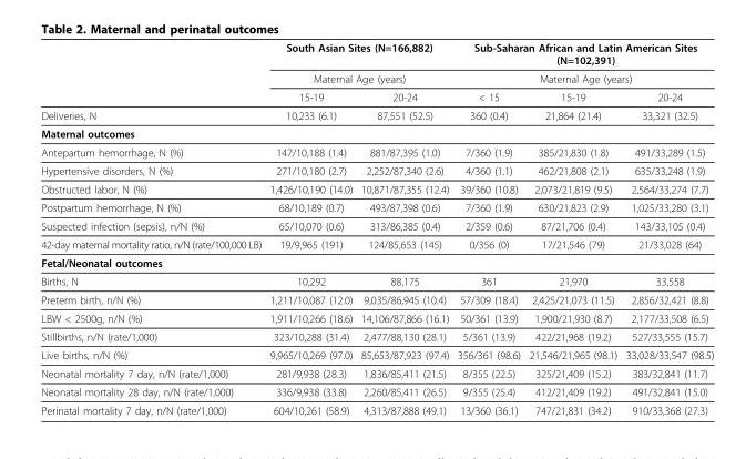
<table><thead><tr><td rowspan="3"></td><td rowspan="2" colspan="2">South Asian Sites (N=166,882) Maternal Age (years)</td><td rowspan="2" colspan="3">Sub-Saharan African and Latin American Sites (N=102,391) Maternal Age (years)</td></tr><tr></tr><tr><td>15-19</td><td>20-24</td><td>&lt; 15</td><td>15-19</td><td>20-24</td></tr></thead><tbody><tr><td>Deliveries, N</td><td>10,233 (6.1)</td><td>87,551 (52.5)</td><td>360 (0.4)</td><td>21,864 (21.4)</td><td>33,321 (32.5)</td></tr><tr><td colspan="6">Maternal outcomes</td></tr><tr><td>Antepartum hemorrhage, N (%)</td><td>147/10,188 (1.4)</td><td>881/87,395 (1.0)</td><td>7/360 (1.9)</td><td>385/21,830 (1.8)</td><td>491/33,289 (1.5)</td></tr><tr><td>Hypertensive disorders, N (%)</td><td>271/10,180 (2.7)</td><td>2,252/87,340 (2.6)</td><td>4/360 (1.1)</td><td>462/21,808 (2.1)</td><td>635/33,248 (1.9)</td></tr><tr><td>Obstructed labor, N (%)</td><td>1,426/10,190 (14.0)</td><td>10,871/87,355 (12.4)</td><td>39/360 (10.8)</td><td>2,073/21,819 (9.5)</td><td>2,564/33,274 (7.7)</td></tr><tr><td>Postpartum hemorrhage, N (%)</td><td>68/10,189 (0.7)</td><td>493/87,398 (0.6)</td><td>7/360 (1.9)</td><td>630/21,823 (2.9)</td><td>1,025/33,280 (3.1)</td></tr><tr><td>Suspected infection (sepsis), n/N (%)</td><td>65/10,070 (0.6)</td><td>313/86,385 (0.4)</td><td>2/359 (0.6)</td><td>87/21,706 (0.4)</td><td>143/33,105 (0.4)</td></tr><tr><td>42-day maternal mortality ratio, n/N (rate/100,000 LB)</td><td>19/9,965 (191)</td><td>124/85,653 (145)</td><td>0/356 (0)</td><td>17/21,546 (79)</td><td>21/33,028 (64)</td></tr><tr><td colspan="6">Fetal/Neonatal outcomes</td></tr><tr><td>Births, N</td><td>10,292</td><td>88,175</td><td>361</td><td>21,970</td><td>33,558</td></tr><tr><td>Preterm birth, n/N (%)</td><td>1,211/10,087 (12.0)</td><td>9,035/86,945 (10.4)</td><td>57/309 (18.4)</td><td>2,425/21,073 (11.5)</td><td>2,856/32,421 (8.8)</td></tr><tr><td>LBW &lt; 2500g, n/N (%)</td><td>1,911/10,266 (18.6)</td><td>14,106/87,866 (16.1)</td><td>50/361 (13.9)</td><td>1,900/21,930 (8.7)</td><td>2,177/33,508 (6.5)</td></tr><tr><td>Stillbirths, n/N (rate/1,000)</td><td>323/10,288 (31.4)</td><td>2,477/88,130 (28.1)</td><td>5/361 (13.9)</td><td>422/21,968 (19.2)</td><td>527/33,555 (15.7)</td></tr><tr><td>Live births, n/N (%)</td><td>9,965/10,269 (97.0)</td><td>85,653/87,923 (97.4)</td><td>356/361 (98.6)</td><td>21,546/21,965 (98.1)</td><td>33,028/33,547 (98.5)</td></tr><tr><td>Neonatal mortality 7 day, n/N (rate/1,000)</td><td>281/9,938 (28.3)</td><td>1,836/85,411 (21.5)</td><td>8/355 (22.5)</td><td>325/21,409 (15.2)</td><td>383/32,841 (11.7)</td></tr><tr><td>Neonatal mortality 28 day, n/N (rate/1,000)</td><td>336/9,938 (33.8)</td><td>2,260/85,411 (26.5)</td><td>9/355 (25.4)</td><td>412/21,409 (19.2)</td><td>491/32,841 (15.0)</td></tr><tr><td>Perinatal mortality 7 day, n/N (rate/1,000)</td><td>604/10,261 (58.9)</td><td>4,313/87,888 (49.1)</td><td>13/360 (36.1)</td><td>747/21,831 (34.2)</td><td>910/33,368 (27.3)</td></tr></tbody></table>